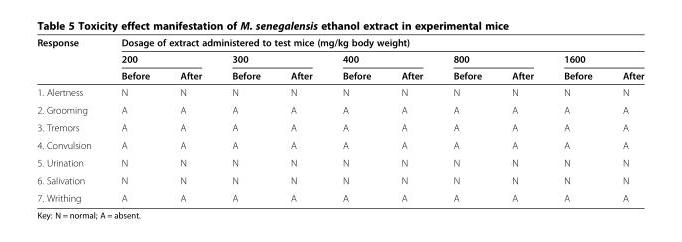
<table><thead><tr><td rowspan="3">Response</td><td colspan="10">Dosage of extract administered to test mice (mg/kg body weight)</td></tr><tr><td colspan="2">200</td><td colspan="2">300</td><td colspan="2">400</td><td colspan="2">800</td><td colspan="2">1600</td></tr><tr><td>Before</td><td>After</td><td>Before</td><td>After</td><td>Before</td><td>After</td><td>Before</td><td>After</td><td>Before</td><td>After</td></tr></thead><tbody><tr><td>1. Alertness</td><td>N</td><td>N</td><td>N</td><td>N</td><td>N</td><td>N</td><td>N</td><td>N</td><td>N</td><td>N</td></tr><tr><td>2. Grooming</td><td>A</td><td>A</td><td>A</td><td>A</td><td>A</td><td>A</td><td>A</td><td>A</td><td>A</td><td>A</td></tr><tr><td>3. Tremors</td><td>A</td><td>A</td><td>A</td><td>A</td><td>A</td><td>A</td><td>A</td><td>A</td><td>A</td><td>A</td></tr><tr><td>4. Convulsion</td><td>A</td><td>A</td><td>A</td><td>A</td><td>A</td><td>A</td><td>A</td><td>A</td><td>A</td><td>A</td></tr><tr><td>5. Urination</td><td>N</td><td>N</td><td>N</td><td>N</td><td>N</td><td>N</td><td>N</td><td>N</td><td>N</td><td>N</td></tr><tr><td>6. Salivation</td><td>N</td><td>N</td><td>N</td><td>N</td><td>N</td><td>N</td><td>N</td><td>N</td><td>N</td><td>N</td></tr><tr><td>7. Writhing</td><td>A</td><td>A</td><td>A</td><td>A</td><td>A</td><td>A</td><td>A</td><td>A</td><td>A</td><td>A</td></tr></tbody></table>